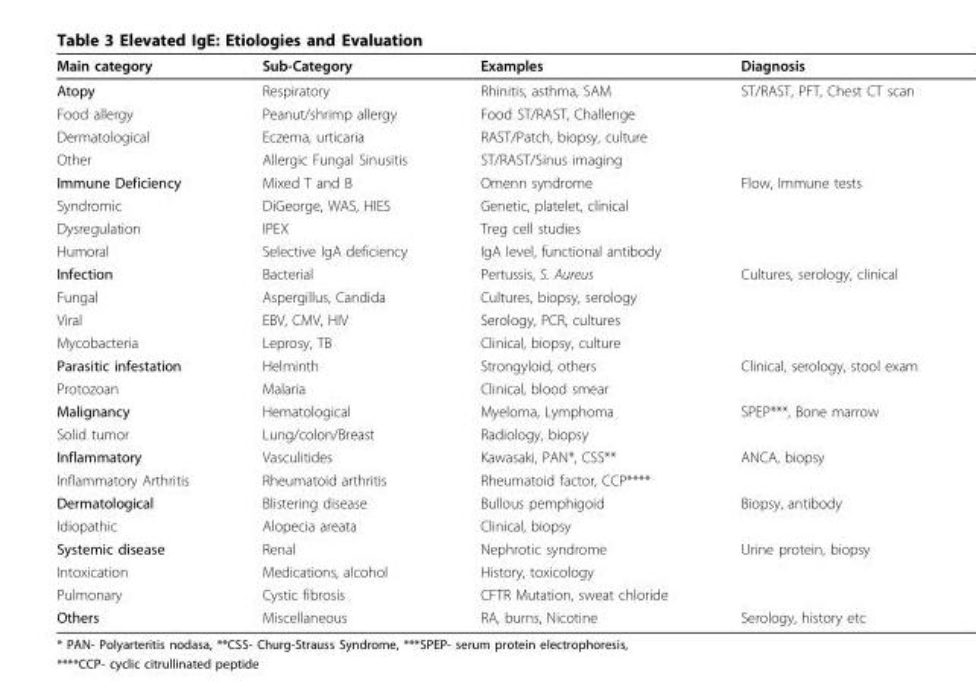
<table><thead><tr><td>Main category</td><td>Sub-Category</td><td>Examples</td><td>Diagnosis</td></tr></thead><tbody><tr><td>Atopy</td><td>Respiratory</td><td>Rhinitis, asthma, SAM</td><td>ST/RAST, PFT, Chest CT scan</td></tr><tr><td>Food allergy</td><td>Peanut/shrimp allergy</td><td>Food ST/RAST, Challenge</td><td></td></tr><tr><td>Dermatological</td><td>Eczema, urticaria</td><td>RAST/Patch, biopsy, culture</td><td></td></tr><tr><td>Other</td><td>Allergic Fungal Sinusitis</td><td>ST/RAST/Sinus imaging</td><td></td></tr><tr><td>Immune Deficiency</td><td>Mixed T and B</td><td>Omenn syndrome</td><td>Flow, Immune tests</td></tr><tr><td>Syndromic</td><td>DiGeorge, WAS, HIES</td><td>Genetic, platelet, clinical</td><td></td></tr><tr><td>Dysregulation</td><td>IPEX</td><td>Treg cell studies</td><td></td></tr><tr><td>Humoral</td><td>Selective IgA deficiency</td><td>IgA level, functional antibody</td><td></td></tr><tr><td>Infection</td><td>Bacterial</td><td>Pertussis, S. Aureus</td><td>Cultures, serology, clinical</td></tr><tr><td>Fungal</td><td>Aspergillus, Candida</td><td>Cultures, biopsy, serology</td><td></td></tr><tr><td>Viral</td><td>EBV, CMV, HIV</td><td>Serology, PCR, cultures</td><td></td></tr><tr><td>Mycobacteria</td><td>Leprosy, TB</td><td>Clinical, biopsy, culture</td><td></td></tr><tr><td>Parasitic infestation</td><td>Helminth</td><td>Strongyloid, others</td><td>Clinical, serology, stool exam</td></tr><tr><td>Protozoan</td><td>Malaria</td><td>Clinical, blood smear</td><td></td></tr><tr><td>Malignancy</td><td>Hematological</td><td>Myeloma, Lymphoma</td><td>SPEP***, Bone marrow</td></tr><tr><td>Solid tumor</td><td>Lung/colon/Breast</td><td>Radiology, biopsy</td><td></td></tr><tr><td>Inflammatory</td><td>Vasculitides</td><td>Kawasaki, PAN*, CSS**</td><td>ANCA, biopsy</td></tr><tr><td>Inflammatory Arthritis</td><td>Rheumatoid arthritis</td><td>Rheumatoid factor, CCP****</td><td></td></tr><tr><td>Dermatological</td><td>Blistering disease</td><td>Bullous pemphigoid</td><td>Biopsy, antibody</td></tr><tr><td>Idiopathic</td><td>Alopecia areata</td><td>Clinical, biopsy</td><td></td></tr><tr><td>Systemic disease</td><td>Renal</td><td>Nephrotic syndrome</td><td>Urine protein, biopsy</td></tr><tr><td>Intoxication</td><td>Medications, alcohol</td><td>History, toxicology</td><td></td></tr><tr><td>Pulmonary</td><td>Cystic fibrosis</td><td>CFTR Mutation, sweat chloride</td><td></td></tr><tr><td>Others</td><td>Miscellaneous</td><td>RA, burns, Nicotine</td><td>Serology, history etc</td></tr></tbody></table>